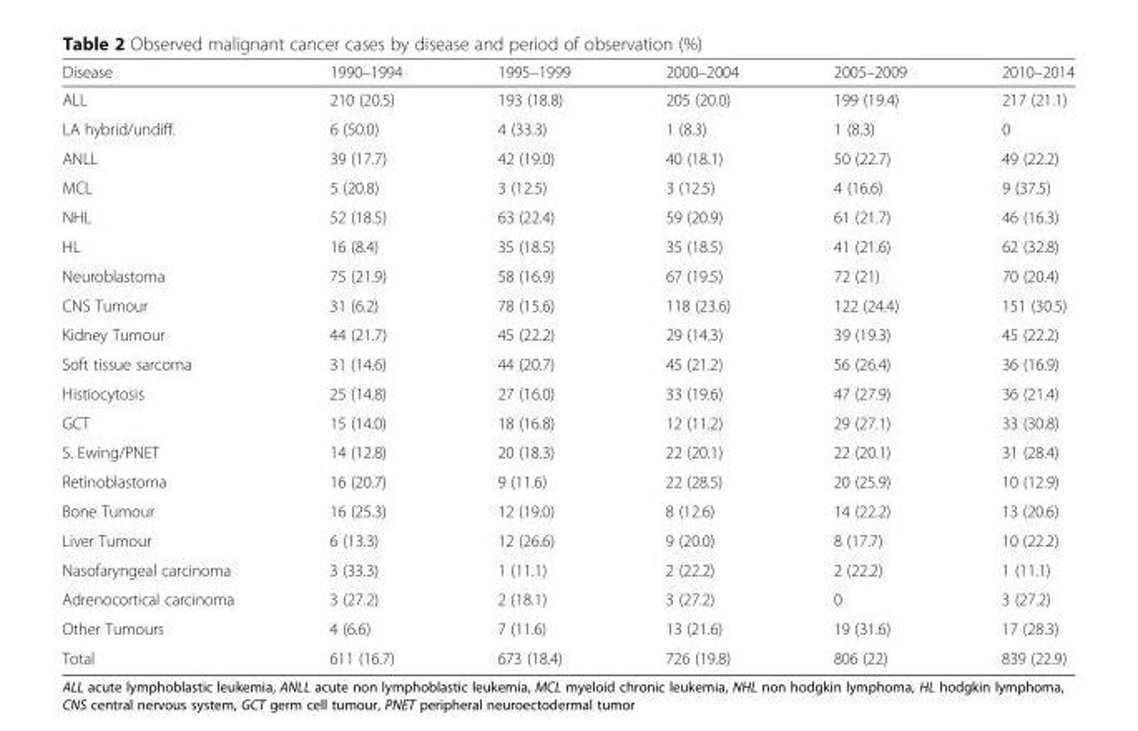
<table><thead><tr><td>Disease</td><td>1990–1994</td><td>1995–1999</td><td>2000–2004</td><td>2005–2009</td><td>2010–2014</td></tr></thead><tbody><tr><td>ALL</td><td>210 (20.5)</td><td>193 (18.8)</td><td>205 (20.0)</td><td>199 (19.4)</td><td>217 (21.1)</td></tr><tr><td>LA hybrid/undiff.</td><td>6 (50.0)</td><td>4 (33.3)</td><td>1 (8.3)</td><td>1 (8.3)</td><td>0</td></tr><tr><td>ANLL</td><td>39 (17.7)</td><td>42 (19.0)</td><td>40 (18.1)</td><td>50 (22.7)</td><td>49 (22.2)</td></tr><tr><td>MCL</td><td>5 (20.8)</td><td>3 (12.5)</td><td>3 (12.5)</td><td>4 (16.6)</td><td>9 (37.5)</td></tr><tr><td>NHL</td><td>52 (18.5)</td><td>63 (22.4)</td><td>59 (20.9)</td><td>61 (21.7)</td><td>46 (16.3)</td></tr><tr><td>HL</td><td>16 (8.4)</td><td>35 (18.5)</td><td>35 (18.5)</td><td>41 (21.6)</td><td>62 (32.8)</td></tr><tr><td>Neuroblastoma</td><td>75 (21.9)</td><td>58 (16.9)</td><td>67 (19.5)</td><td>72 (21)</td><td>70 (20.4)</td></tr><tr><td>CNS Tumour</td><td>31 (6.2)</td><td>78 (15.6)</td><td>118 (23.6)</td><td>122 (24.4)</td><td>151 (30.5)</td></tr><tr><td>Kidney Tumour</td><td>44 (21.7)</td><td>45 (22.2)</td><td>29 (14.3)</td><td>39 (19.3)</td><td>45 (22.2)</td></tr><tr><td>Soft tissue sarcoma</td><td>31 (14.6)</td><td>44 (20.7)</td><td>45 (21.2)</td><td>56 (26.4)</td><td>36 (16.9)</td></tr><tr><td>Histiocytosis</td><td>25 (14.8)</td><td>27 (16.0)</td><td>33 (19.6)</td><td>47 (27.9)</td><td>36 (21.4)</td></tr><tr><td>GCT</td><td>15 (14.0)</td><td>18 (16.8)</td><td>12 (11.2)</td><td>29 (27.1)</td><td>33 (30.8)</td></tr><tr><td>S. Ewing/PNET</td><td>14 (12.8)</td><td>20 (18.3)</td><td>22 (20.1)</td><td>22 (20.1)</td><td>31 (28.4)</td></tr><tr><td>Retinoblastoma</td><td>16 (20.7)</td><td>9 (11.6)</td><td>22 (28.5)</td><td>20 (25.9)</td><td>10 (12.9)</td></tr><tr><td>Bone Tumour</td><td>16 (25.3)</td><td>12 (19.0)</td><td>8 (12.6)</td><td>14 (22.2)</td><td>13 (20.6)</td></tr><tr><td>Liver Tumour</td><td>6 (13.3)</td><td>12 (26.6)</td><td>9 (20.0)</td><td>8 (17.7)</td><td>10 (22.2)</td></tr><tr><td>Nasofaryngeal carcinoma</td><td>3 (33.3)</td><td>1 (11.1)</td><td>2 (22.2)</td><td>2 (22.2)</td><td>1 (11.1)</td></tr><tr><td>Adrenocortical carcinoma</td><td>3 (27.2)</td><td>2 (18.1)</td><td>3 (27.2)</td><td>0</td><td>3 (27.2)</td></tr><tr><td>Other Tumours</td><td>4 (6.6)</td><td>7 (11.6)</td><td>13 (21.6)</td><td>19 (31.6)</td><td>17 (28.3)</td></tr><tr><td>Total</td><td>611 (16.7)</td><td>673 (18.4)</td><td>726 (19.8)</td><td>806 (22)</td><td>839 (22.9)</td></tr></tbody></table>